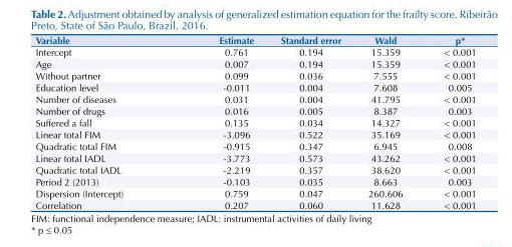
<table><thead><tr><td>Variable</td><td>Estimate</td><td>Standard error</td><td>Wald</td><td>p*</td></tr></thead><tbody><tr><td>Intercept</td><td>0.761</td><td>0.194</td><td>15.359</td><td>&lt; 0.001</td></tr><tr><td>Age</td><td>0.007</td><td>0.194</td><td>15.359</td><td>&lt; 0.001</td></tr><tr><td>Without partner</td><td>0.099</td><td>0.036</td><td>7.555</td><td>&lt; 0.001</td></tr><tr><td>Education level</td><td>-0.011</td><td>0.004</td><td>7.608</td><td>0.005</td></tr><tr><td>Number of diseases</td><td>0.031</td><td>0.004</td><td>41.795</td><td>&lt; 0.001</td></tr><tr><td>Number of drugs</td><td>0.016</td><td>0.005</td><td>8.387</td><td>0.003</td></tr><tr><td>Suffered a fall</td><td>0.135</td><td>0.034</td><td>14.327</td><td>&lt; 0.001</td></tr><tr><td>Linear total FIM</td><td>-3.096</td><td>0.522</td><td>35.169</td><td>&lt; 0.001</td></tr><tr><td>Quadratic total FIM</td><td>-0.915</td><td>0.347</td><td>6.945</td><td>0.008</td></tr><tr><td>Linear total IADL</td><td>-3.773</td><td>0.573</td><td>43.262</td><td>&lt; 0.001</td></tr><tr><td>Quadratic total IADL</td><td>-2.219</td><td>0.357</td><td>38.620</td><td>&lt; 0.001</td></tr><tr><td>Period 2 (2013)</td><td>-0.103</td><td>0.035</td><td>8.663</td><td>0.003</td></tr><tr><td>Dispersion (Intercept)</td><td>0.759</td><td>0.047</td><td>260.606</td><td>&lt; 0.001</td></tr><tr><td>Correlation</td><td>0.207</td><td>0.060</td><td>11.628</td><td>&lt; 0.001</td></tr></tbody></table>